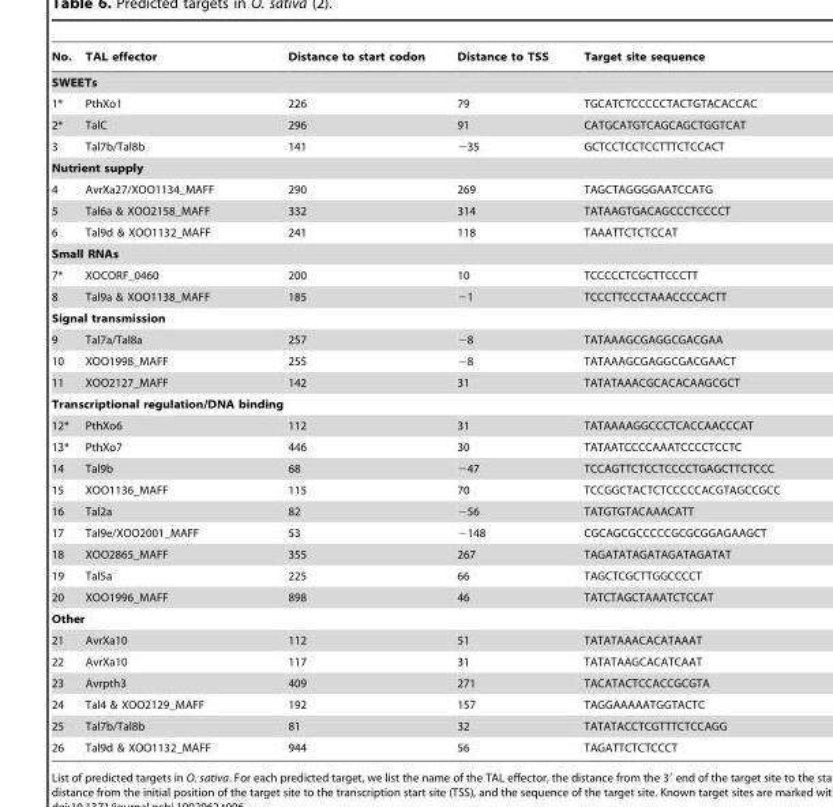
<table><thead><tr><td>No.</td><td>TAL effector</td><td>Distance to start codon</td><td>Distance to TSS</td><td>Target site sequence</td></tr></thead><tbody><tr><td colspan="5">SWEETs</td></tr><tr><td>1*</td><td>PthXo1</td><td>226</td><td>79</td><td>TGCATCTCCCCCTACTGTACACCAC</td></tr><tr><td>2*</td><td>TalC</td><td>296</td><td>91</td><td>CATGCATGTCAGCAGCTGGTCAT</td></tr><tr><td>3</td><td>Tal7b/Tal8b</td><td>141</td><td>−35</td><td>GCTCCTCCTCCTTTCTCCACT</td></tr><tr><td colspan="5">Nutrient supply</td></tr><tr><td>4</td><td>AvrXa27/XOO1134_MAFF</td><td>290</td><td>269</td><td>TAGCTAGGGGAATCCATG</td></tr><tr><td>5</td><td>Tal6a &amp; XOO2158_MAFF</td><td>332</td><td>314</td><td>TATAAGTGACAGCCCTCCCCT</td></tr><tr><td>6</td><td>Tal9d &amp; XOO1132_MAFF</td><td>241</td><td>118</td><td>TAAATTCTCTCCAT</td></tr><tr><td colspan="5">Small RNAs</td></tr><tr><td>7*</td><td>XOCORF_0460</td><td>200</td><td>10</td><td>TCCCCCTCGCTTCCCTT</td></tr><tr><td>8</td><td>Tal9a &amp; XOO1138_MAFF</td><td>185</td><td>−1</td><td>TCCCTTCCCTAAACCCCACTT</td></tr><tr><td colspan="5">Signal transmission</td></tr><tr><td>9</td><td>Tal7a/Tal8a</td><td>257</td><td>−8</td><td>TATAAAGCGAGGCGACGAA</td></tr><tr><td>10</td><td>XOO1998_MAFF</td><td>255</td><td>−8</td><td>TATAAAGCGAGGCGACGAACT</td></tr><tr><td>11</td><td>XOO2127_MAFF</td><td>142</td><td>31</td><td>TATATAAACGCACACAAGCGCT</td></tr><tr><td colspan="5">Transcriptional regulation/DNA binding</td></tr><tr><td>12*</td><td>PthXo6</td><td>112</td><td>31</td><td>TATAAAAGGCCCTCACCAACCCAT</td></tr><tr><td>13*</td><td>PthXo7</td><td>446</td><td>30</td><td>TATAATCCCCAAATCCCCTCCTC</td></tr><tr><td>14</td><td>Tal9b</td><td>68</td><td>−47</td><td>TCCAGTTCTCCTCCCCTGAGCTTCTCCC</td></tr><tr><td>15</td><td>XOO1136_MAFF</td><td>115</td><td>70</td><td>TCCGGCTACTCTCCCCCACGTAGCCGCC</td></tr><tr><td>16</td><td>Tal2a</td><td>82</td><td>−56</td><td>TATGTGTACAAACATT</td></tr><tr><td>17</td><td>Tal9e/XOO2001_MAFF</td><td>53</td><td>−148</td><td>CGCAGCGCCCCCGCGCGGAGAAGCT</td></tr><tr><td>18</td><td>XOO2865_MAFF</td><td>355</td><td>267</td><td>TAGATATAGATAGATAGATAT</td></tr><tr><td>19</td><td>Tal5a</td><td>225</td><td>66</td><td>TAGCTCGCTTGGCCCCT</td></tr><tr><td>20</td><td>XOO1996_MAFF</td><td>898</td><td>46</td><td>TATCTAGCTAAATCTCCAT</td></tr><tr><td colspan="5">Other</td></tr><tr><td>21</td><td>AvrXa10</td><td>112</td><td>51</td><td>TATATAAACACATAAAT</td></tr><tr><td>22</td><td>AvrXa10</td><td>117</td><td>31</td><td>TATATAAGCACATCAAT</td></tr><tr><td>23</td><td>Avrpth3</td><td>409</td><td>271</td><td>TACATACTCCACCGCGTA</td></tr><tr><td>24</td><td>Tal4 &amp; XOO2129_MAFF</td><td>192</td><td>157</td><td>TAGGAAAAATGGTACTC</td></tr><tr><td>25</td><td>Tal7b/Tal8b</td><td>81</td><td>32</td><td>TATATACCTCGTTTCTCCAGG</td></tr><tr><td>26</td><td>Tal9d &amp; XOO1132_MAFF</td><td>944</td><td>56</td><td>TAGATTCTCTCCCT</td></tr></tbody></table>